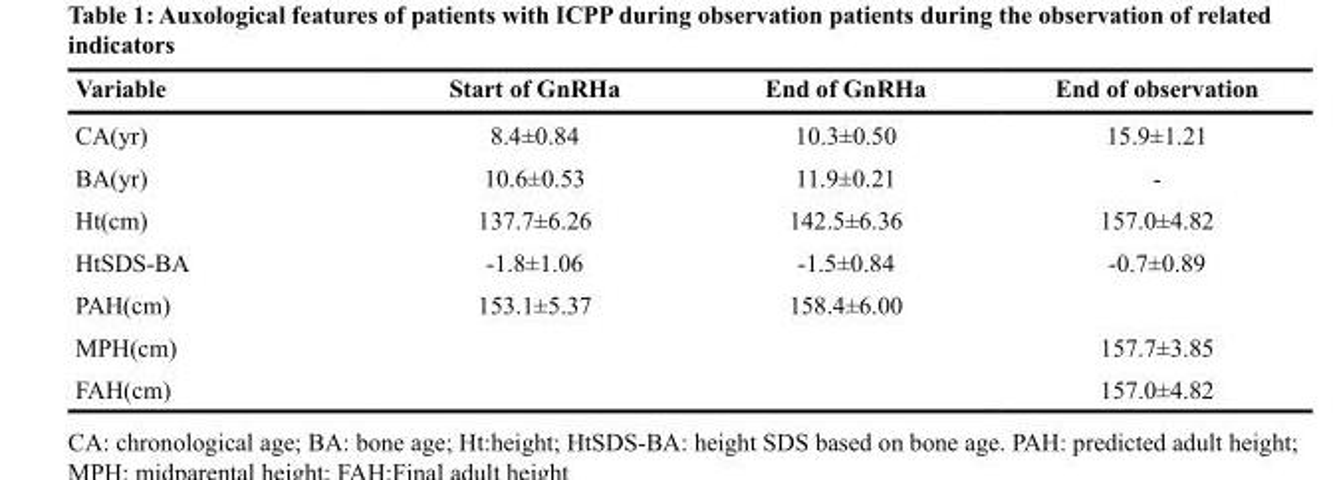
<table><thead><tr><td>Variable</td><td>Start of GnRHa</td><td>End of GnRHa</td><td>End of observation</td></tr></thead><tbody><tr><td>CA(yr)</td><td>8.4±0.84</td><td>10.3±0.50</td><td>15.9±1.21</td></tr><tr><td>BA(yr)</td><td>10.6±0.53</td><td>11.9±0.21</td><td>-</td></tr><tr><td>Ht(cm)</td><td>137.7±6.26</td><td>142.5±6.36</td><td>157.0±4.82</td></tr><tr><td>HtSDS-BA</td><td>-1.8±1.06</td><td>-1.5±0.84</td><td>-0.7±0.89</td></tr><tr><td>PAH(cm)</td><td>153.1±5.37</td><td>158.4±6.00</td><td></td></tr><tr><td>MPH(cm)</td><td></td><td></td><td>157.7±3.85</td></tr><tr><td>FAH(cm)</td><td></td><td></td><td>157.0±4.82</td></tr></tbody></table>